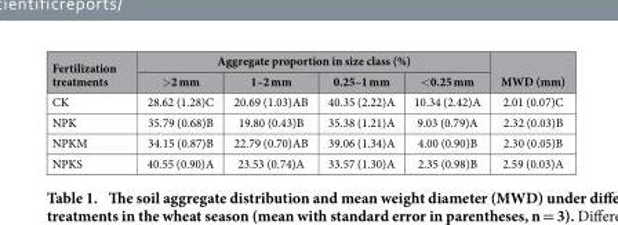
<table><thead><tr><td rowspan="2">Fertilization treatments</td><td colspan="4">Aggregate proportion in size class (%)</td><td rowspan="2">MWD (mm)</td></tr><tr><td>&gt;2 mm</td><td>1–2 mm</td><td>0.25–1 mm</td><td>&lt;0.25 mm</td></tr></thead><tbody><tr><td>CK</td><td>28.62 (1.28)C</td><td>20.69 (1.03)AB</td><td>40.35 (2.22)A</td><td>10.34 (2.42)A</td><td>2.01 (0.07)C</td></tr><tr><td>NPK</td><td>35.79 (0.68)B</td><td>19.80 (0.43)B</td><td>35.38 (1.21)A</td><td>9.03 (0.79)A</td><td>2.32 (0.03)B</td></tr><tr><td>NPKM</td><td>34.15 (0.87)B</td><td>22.79 (0.70)AB</td><td>39.06 (1.34)A</td><td>4.00 (0.90)B</td><td>2.30 (0.05)B</td></tr><tr><td>NPKS</td><td>40.55 (0.90)A</td><td>23.53 (0.74)A</td><td>33.57 (1.30)A</td><td>2.35 (0.98)B</td><td>2.59 (0.03)A</td></tr></tbody></table>